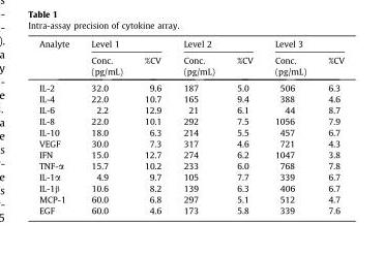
<table><thead><tr><td rowspan="2">Analyte</td><td colspan="2">Level 1</td><td colspan="2">Level 2</td><td colspan="2">Level 3</td></tr><tr><td>Conc. (pg/mL)</td><td>%CV</td><td>Conc. (pg/mL)</td><td>%CV</td><td>Conc. (pg/mL)</td><td>%CV</td></tr></thead><tbody><tr><td>IL-2</td><td>32.0</td><td>9.6</td><td>187</td><td>5.0</td><td>506</td><td>6.3</td></tr><tr><td>IL-4</td><td>22.0</td><td>10.7</td><td>165</td><td>9.4</td><td>388</td><td>4.6</td></tr><tr><td>IL-6</td><td>2.2</td><td>12.9</td><td>21</td><td>6.1</td><td>44</td><td>8.7</td></tr><tr><td>IL-8</td><td>22.0</td><td>10.1</td><td>292</td><td>7.5</td><td>1056</td><td>7.9</td></tr><tr><td>IL-10</td><td>18.0</td><td>6.3</td><td>214</td><td>5.5</td><td>457</td><td>6.7</td></tr><tr><td>VEGF</td><td>30.0</td><td>7.3</td><td>317</td><td>4.6</td><td>721</td><td>4.3</td></tr><tr><td>IFN</td><td>15.0</td><td>12.7</td><td>274</td><td>6.2</td><td>1047</td><td>3.8</td></tr><tr><td>TNF-α</td><td>15.7</td><td>10.2</td><td>233</td><td>6.0</td><td>768</td><td>7.8</td></tr><tr><td>IL-1α</td><td>4.9</td><td>9.7</td><td>105</td><td>7.7</td><td>339</td><td>6.7</td></tr><tr><td>IL-1β</td><td>10.6</td><td>8.2</td><td>139</td><td>6.3</td><td>406</td><td>6.7</td></tr><tr><td>MCP-1</td><td>60.0</td><td>6.8</td><td>297</td><td>5.1</td><td>512</td><td>4.7</td></tr><tr><td>EGF</td><td>60.0</td><td>4.6</td><td>173</td><td>5.8</td><td>339</td><td>7.6</td></tr></tbody></table>